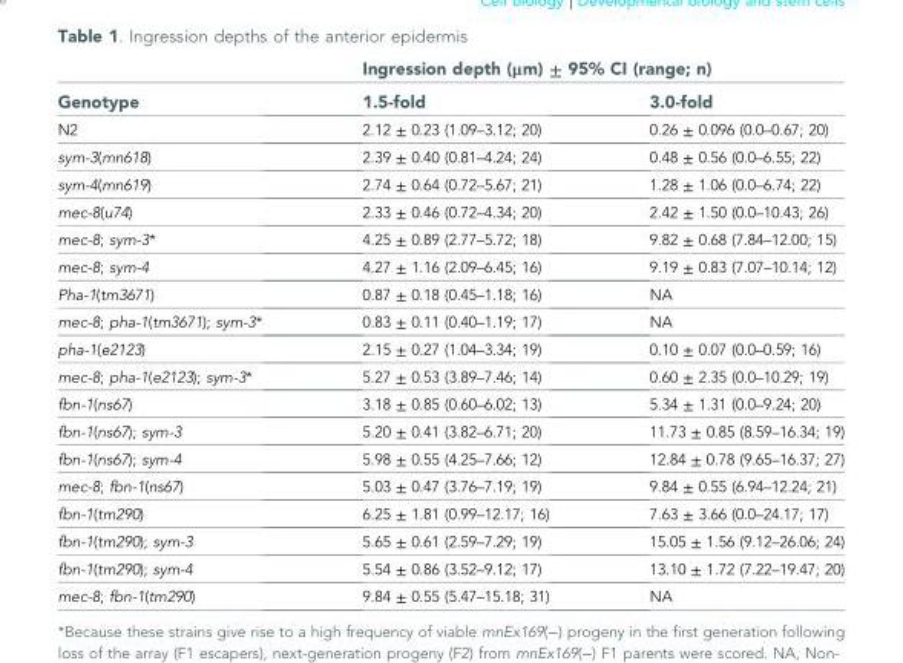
<table><thead><tr><td rowspan="2">Genotype</td><td colspan="2">Ingression depth (μm) ± 95% CI (range; n)</td></tr><tr><td>1.5-fold</td><td>3.0-fold</td></tr></thead><tbody><tr><td>N2</td><td>2.12 ± 0.23 (1.09–3.12; 20)</td><td>0.26 ± 0.096 (0.0–0.67; 20)</td></tr><tr><td>sym-3(mn618)</td><td>2.39 ± 0.40 (0.81–4.24; 24)</td><td>0.48 ± 0.56 (0.0–6.55; 22)</td></tr><tr><td>sym-4(mn619)</td><td>2.74 ± 0.64 (0.72–5.67; 21)</td><td>1.28 ± 1.06 (0.0–6.74; 22)</td></tr><tr><td>mec-8(u74)</td><td>2.33 ± 0.46 (0.72–4.34; 20)</td><td>2.42 ± 1.50 (0.0–10.43; 26)</td></tr><tr><td>mec-8; sym-3*</td><td>4.25 ± 0.89 (2.77–5.72; 18)</td><td>9.82 ± 0.68 (7.84–12.00; 15)</td></tr><tr><td>mec-8; sym-4</td><td>4.27 ± 1.16 (2.09–6.45; 16)</td><td>9.19 ± 0.83 (7.07–10.14; 12)</td></tr><tr><td>Pha-1(tm3671)</td><td>0.87 ± 0.18 (0.45–1.18; 16)</td><td>NA</td></tr><tr><td>mec-8; pha-1(tm3671); sym-3*</td><td>0.83 ± 0.11 (0.40–1.19; 17)</td><td>NA</td></tr><tr><td>pha-1(e2123)</td><td>2.15 ± 0.27 (1.04–3.34; 19)</td><td>0.10 ± 0.07 (0.0–0.59; 16)</td></tr><tr><td>mec-8; pha-1(e2123); sym-3*</td><td>5.27 ± 0.53 (3.89–7.46; 14)</td><td>0.60 ± 2.35 (0.0–10.29; 19)</td></tr><tr><td>fbn-1(ns67)</td><td>3.18 ± 0.85 (0.60–6.02; 13)</td><td>5.34 ± 1.31 (0.0–9.24; 20)</td></tr><tr><td>fbn-1(ns67); sym-3</td><td>5.20 ± 0.41 (3.82–6.71; 20)</td><td>11.73 ± 0.85 (8.59–16.34; 19)</td></tr><tr><td>fbn-1(ns67); sym-4</td><td>5.98 ± 0.55 (4.25–7.66; 12)</td><td>12.84 ± 0.78 (9.65–16.37; 27)</td></tr><tr><td>mec-8; fbn-1(ns67)</td><td>5.03 ± 0.47 (3.76–7.19; 19)</td><td>9.84 ± 0.55 (6.94–12.24; 21)</td></tr><tr><td>fbn-1(tm290)</td><td>6.25 ± 1.81 (0.99–12.17; 16)</td><td>7.63 ± 3.66 (0.0–24.17; 17)</td></tr><tr><td>fbn-1(tm290); sym-3</td><td>5.65 ± 0.61 (2.59–7.29; 19)</td><td>15.05 ± 1.56 (9.12–26.06; 24)</td></tr><tr><td>fbn-1(tm290); sym-4</td><td>5.54 ± 0.86 (3.52–9.12; 17)</td><td>13.10 ± 1.72 (7.22–19.47; 20)</td></tr><tr><td>mec-8; fbn-1(tm290)</td><td>9.84 ± 0.55 (5.47–15.18; 31)</td><td>NA</td></tr></tbody></table>